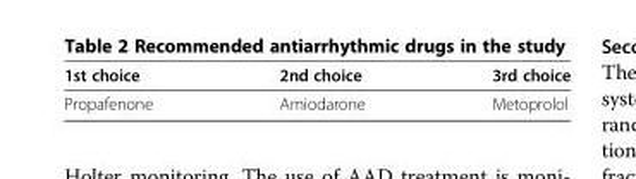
<table><thead><tr><td>1st choice</td><td>2nd choice</td><td>3rd choice</td></tr></thead><tbody><tr><td>Propafenone</td><td>Amiodarone</td><td>Metoprolol</td></tr></tbody></table>